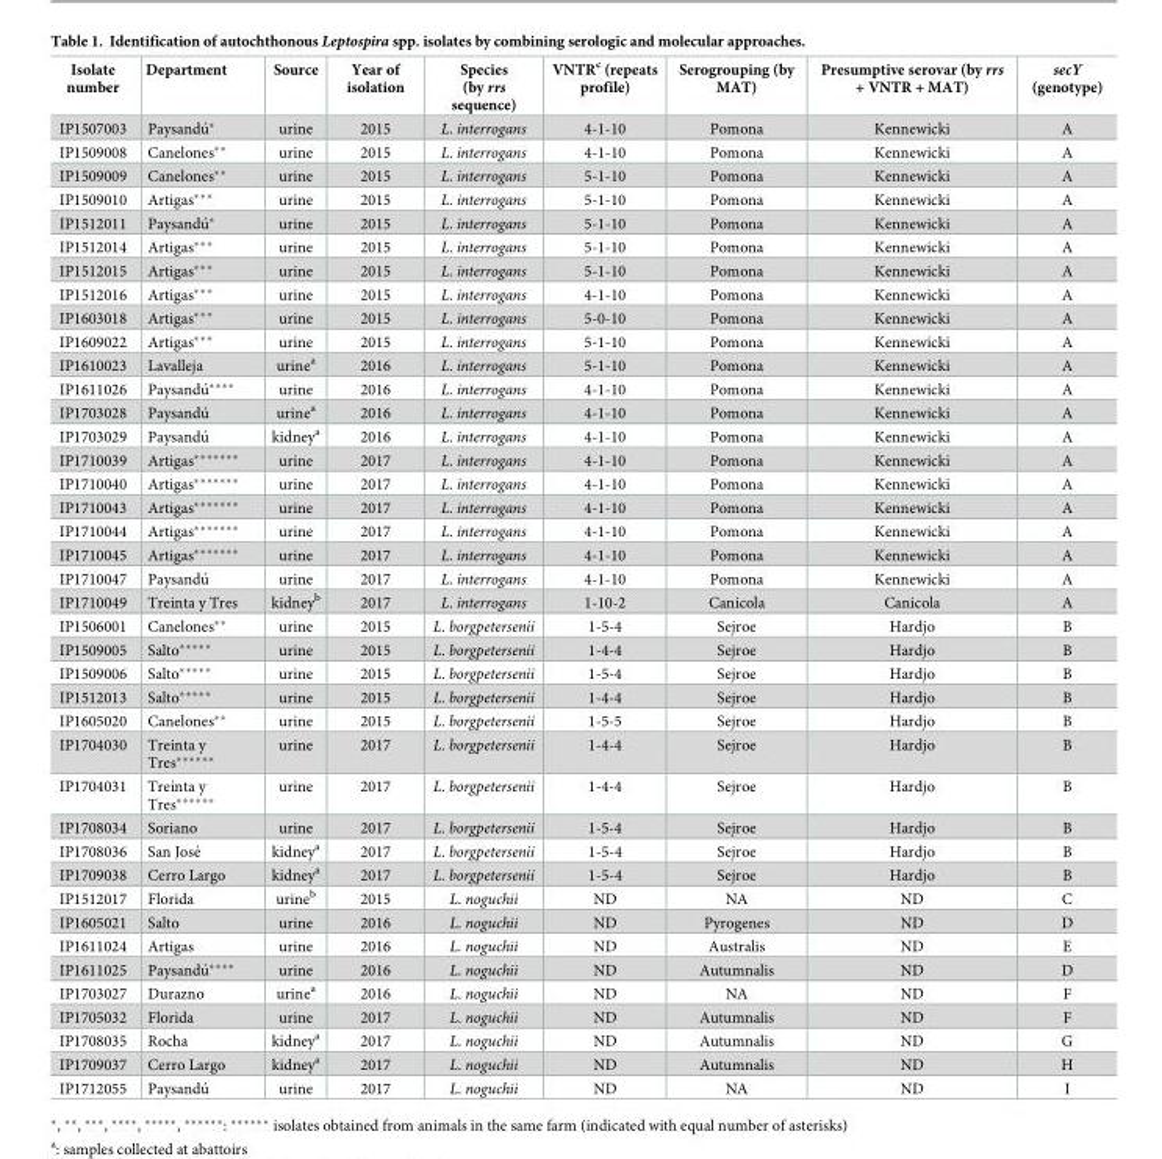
<table><thead><tr><td>Isolate number</td><td>Department</td><td>Source</td><td>Year of isolation</td><td>Species (by rrs sequence)</td><td>VNTR<sup>c</sup> (repeats profile)</td><td>Serogrouping (by MAT)</td><td>Presumptive serovar (by rrs + VNTR + MAT)</td><td>secY (genotype)</td></tr></thead><tbody><tr><td>IP1507003</td><td>Paysandu´�</td><td>urine</td><td>2015</td><td>L. interrogans</td><td>4-1-10</td><td>Pomona</td><td>Kennewicki</td><td>A</td></tr><tr><td>IP1509008</td><td>Canelones**</td><td>urine</td><td>2015</td><td>L. interrogans</td><td>4-1-10</td><td>Pomona</td><td>Kennewicki</td><td>A</td></tr><tr><td>IP1509009</td><td>Canelones**</td><td>urine</td><td>2015</td><td>L. interrogans</td><td>5-1-10</td><td>Pomona</td><td>Kennewicki</td><td>A</td></tr><tr><td>IP1509010</td><td>Artigas***</td><td>urine</td><td>2015</td><td>L. interrogans</td><td>5-1-10</td><td>Pomona</td><td>Kennewicki</td><td>A</td></tr><tr><td>IP1512011</td><td>Paysandu´�</td><td>urine</td><td>2015</td><td>L. interrogans</td><td>5-1-10</td><td>Pomona</td><td>Kennewicki</td><td>A</td></tr><tr><td>IP1512014</td><td>Artigas***</td><td>urine</td><td>2015</td><td>L. interrogans</td><td>5-1-10</td><td>Pomona</td><td>Kennewicki</td><td>A</td></tr><tr><td>IP1512015</td><td>Artigas***</td><td>urine</td><td>2015</td><td>L. interrogans</td><td>5-1-10</td><td>Pomona</td><td>Kennewicki</td><td>A</td></tr><tr><td>IP1512016</td><td>Artigas***</td><td>urine</td><td>2015</td><td>L. interrogans</td><td>4-1-10</td><td>Pomona</td><td>Kennewicki</td><td>A</td></tr><tr><td>IP1603018</td><td>Artigas***</td><td>urine</td><td>2015</td><td>L. interrogans</td><td>5-0-10</td><td>Pomona</td><td>Kennewicki</td><td>A</td></tr><tr><td>IP1609022</td><td>Artigas***</td><td>urine</td><td>2015</td><td>L. interrogans</td><td>5-1-10</td><td>Pomona</td><td>Kennewicki</td><td>A</td></tr><tr><td>IP1610023</td><td>Lavalleja</td><td>urine<sup>a</sup></td><td>2016</td><td>L. interrogans</td><td>5-1-10</td><td>Pomona</td><td>Kennewicki</td><td>A</td></tr><tr><td>IP1611026</td><td>Paysandu´����</td><td>urine</td><td>2016</td><td>L. interrogans</td><td>4-1-10</td><td>Pomona</td><td>Kennewicki</td><td>A</td></tr><tr><td>IP1703028</td><td>Paysandu´</td><td>urine<sup>a</sup></td><td>2016</td><td>L. interrogans</td><td>4-1-10</td><td>Pomona</td><td>Kennewicki</td><td>A</td></tr><tr><td>IP1703029</td><td>Paysandu´</td><td>kidney<sup>a</sup></td><td>2016</td><td>L. interrogans</td><td>4-1-10</td><td>Pomona</td><td>Kennewicki</td><td>A</td></tr><tr><td>IP1710039</td><td>Artigas*******</td><td>urine</td><td>2017</td><td>L. interrogans</td><td>4-1-10</td><td>Pomona</td><td>Kennewicki</td><td>A</td></tr><tr><td>IP1710040</td><td>Artigas*******</td><td>urine</td><td>2017</td><td>L. interrogans</td><td>4-1-10</td><td>Pomona</td><td>Kennewicki</td><td>A</td></tr><tr><td>IP1710043</td><td>Artigas*******</td><td>urine</td><td>2017</td><td>L. interrogans</td><td>4-1-10</td><td>Pomona</td><td>Kennewicki</td><td>A</td></tr><tr><td>IP1710044</td><td>Artigas*******</td><td>urine</td><td>2017</td><td>L. interrogans</td><td>4-1-10</td><td>Pomona</td><td>Kennewicki</td><td>A</td></tr><tr><td>IP1710045</td><td>Artigas*******</td><td>urine</td><td>2017</td><td>L. interrogans</td><td>4-1-10</td><td>Pomona</td><td>Kennewicki</td><td>A</td></tr><tr><td>IP1710047</td><td>Paysandu´</td><td>urine</td><td>2017</td><td>L. interrogans</td><td>4-1-10</td><td>Pomona</td><td>Kennewicki</td><td>A</td></tr><tr><td>IP1710049</td><td>Treinta y Tres</td><td>kidney<sup>b</sup></td><td>2017</td><td>L. interrogans</td><td>1-10-2</td><td>Canicola</td><td>Canicola</td><td>A</td></tr><tr><td>IP1506001</td><td>Canelones**</td><td>urine</td><td>2015</td><td>L. borgpetersenii</td><td>1-5-4</td><td>Sejroe</td><td>Hardjo</td><td>B</td></tr><tr><td>IP1509005</td><td>Salto*****</td><td>urine</td><td>2015</td><td>L. borgpetersenii</td><td>1-4-4</td><td>Sejroe</td><td>Hardjo</td><td>B</td></tr><tr><td>IP1509006</td><td>Salto*****</td><td>urine</td><td>2015</td><td>L. borgpetersenii</td><td>1-5-4</td><td>Sejroe</td><td>Hardjo</td><td>B</td></tr><tr><td>IP1512013</td><td>Salto*****</td><td>urine</td><td>2015</td><td>L. borgpetersenii</td><td>1-4-4</td><td>Sejroe</td><td>Hardjo</td><td>B</td></tr><tr><td>IP1605020</td><td>Canelones**</td><td>urine</td><td>2015</td><td>L. borgpetersenii</td><td>1-5-5</td><td>Sejroe</td><td>Hardjo</td><td>B</td></tr><tr><td>IP1704030</td><td>Treinta y Tres******</td><td>urine</td><td>2017</td><td>L. borgpetersenii</td><td>1-4-4</td><td>Sejroe</td><td>Hardjo</td><td>B</td></tr><tr><td>IP1704031</td><td>Treinta y Tres******</td><td>urine</td><td>2017</td><td>L. borgpetersenii</td><td>1-4-4</td><td>Sejroe</td><td>Hardjo</td><td>B</td></tr><tr><td>IP1708034</td><td>Soriano</td><td>urine</td><td>2017</td><td>L. borgpetersenii</td><td>1-5-4</td><td>Sejroe</td><td>Hardjo</td><td>B</td></tr><tr><td>IP1708036</td><td>San Jose´</td><td>kidney<sup>a</sup></td><td>2017</td><td>L. borgpetersenii</td><td>1-5-4</td><td>Sejroe</td><td>Hardjo</td><td>B</td></tr><tr><td>IP1709038</td><td>Cerro Largo</td><td>kidney<sup>a</sup></td><td>2017</td><td>L. borgpetersenii</td><td>1-5-4</td><td>Sejroe</td><td>Hardjo</td><td>B</td></tr><tr><td>IP1512017</td><td>Florida</td><td>urine<sup>b</sup></td><td>2015</td><td>L. noguchii</td><td>ND</td><td>NA</td><td>ND</td><td>C</td></tr><tr><td>IP1605021</td><td>Salto</td><td>urine</td><td>2016</td><td>L. noguchii</td><td>ND</td><td>Pyrogenes</td><td>ND</td><td>D</td></tr><tr><td>IP1611024</td><td>Artigas</td><td>urine</td><td>2016</td><td>L. noguchii</td><td>ND</td><td>Australis</td><td>ND</td><td>E</td></tr><tr><td>IP1611025</td><td>Paysandu´����</td><td>urine</td><td>2016</td><td>L. noguchii</td><td>ND</td><td>Autumnalis</td><td>ND</td><td>D</td></tr><tr><td>IP1703027</td><td>Durazno</td><td>urine<sup>a</sup></td><td>2016</td><td>L. noguchii</td><td>ND</td><td>NA</td><td>ND</td><td>F</td></tr><tr><td>IP1705032</td><td>Florida</td><td>urine</td><td>2017</td><td>L. noguchii</td><td>ND</td><td>Autumnalis</td><td>ND</td><td>F</td></tr><tr><td>IP1708035</td><td>Rocha</td><td>kidney<sup>a</sup></td><td>2017</td><td>L. noguchii</td><td>ND</td><td>Autumnalis</td><td>ND</td><td>G</td></tr><tr><td>IP1709037</td><td>Cerro Largo</td><td>kidney<sup>a</sup></td><td>2017</td><td>L. noguchii</td><td>ND</td><td>Autumnalis</td><td>ND</td><td>H</td></tr><tr><td>IP1712055</td><td>Paysandu´</td><td>urine</td><td>2017</td><td>L. noguchii</td><td>ND</td><td>NA</td><td>ND</td><td>I</td></tr></tbody></table>